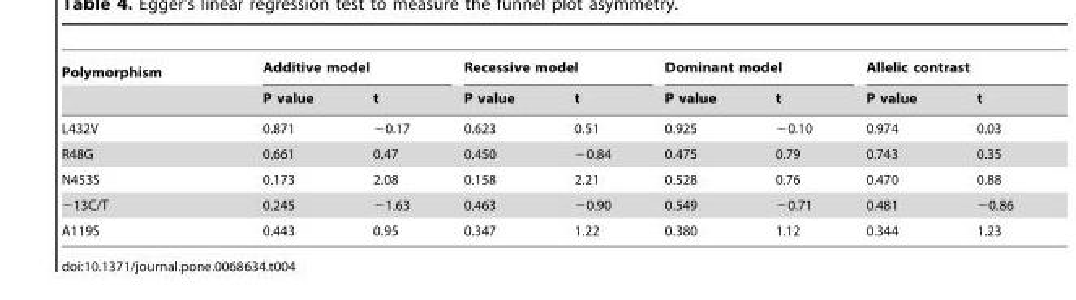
<table><thead><tr><td rowspan="2">Polymorphism</td><td colspan="2">Additive model</td><td colspan="2">Recessive model</td><td colspan="2">Dominant model</td><td colspan="2">Allelic contrast</td></tr><tr><td>P value</td><td>t</td><td>P value</td><td>t</td><td>P value</td><td>t</td><td>P value</td><td>t</td></tr></thead><tbody><tr><td>L432V</td><td>0.871</td><td>−0.17</td><td>0.623</td><td>0.51</td><td>0.925</td><td>−0.10</td><td>0.974</td><td>0.03</td></tr><tr><td>R48G</td><td>0.661</td><td>0.47</td><td>0.450</td><td>−0.84</td><td>0.475</td><td>0.79</td><td>0.743</td><td>0.35</td></tr><tr><td>N453S</td><td>0.173</td><td>2.08</td><td>0.158</td><td>2.21</td><td>0.528</td><td>0.76</td><td>0.470</td><td>0.88</td></tr><tr><td>−13C/T</td><td>0.245</td><td>−1.63</td><td>0.463</td><td>−0.90</td><td>0.549</td><td>−0.71</td><td>0.481</td><td>−0.86</td></tr><tr><td>A119S</td><td>0.443</td><td>0.95</td><td>0.347</td><td>1.22</td><td>0.380</td><td>1.12</td><td>0.344</td><td>1.23</td></tr></tbody></table>